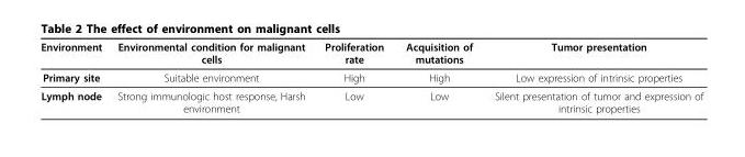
<table><thead><tr><td>Environment</td><td>Environmental condition for malignant cells</td><td>Proliferation rate</td><td>Acquisition of mutations</td><td>Tumor presentation</td></tr></thead><tbody><tr><td>Primary site</td><td>Suitable environment</td><td>High</td><td>High</td><td>Low expression of intrinsic properties</td></tr><tr><td>Lymph node</td><td>Strong immunologic host response, Harsh environment</td><td>Low</td><td>Low</td><td>Silent presentation of tumor and expression of intrinsic properties</td></tr></tbody></table>